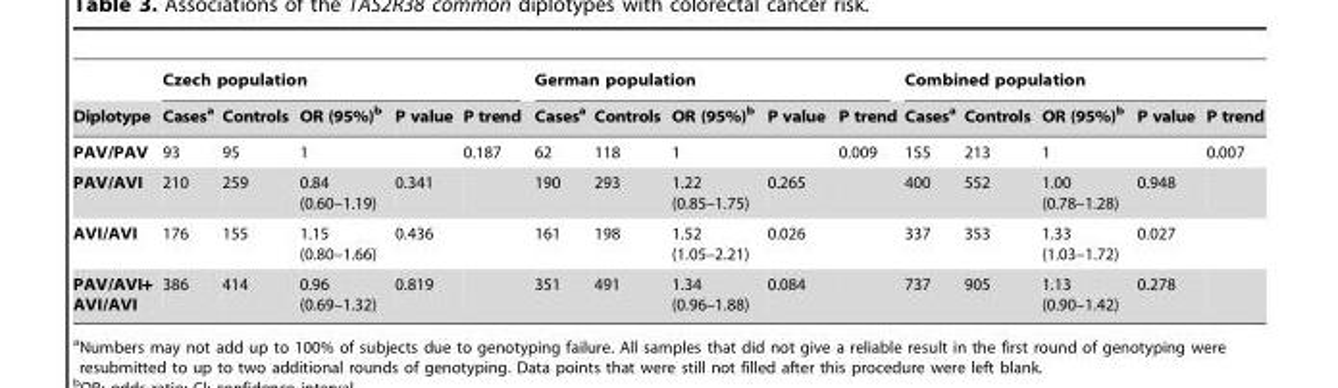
<table><thead><tr><td rowspan="2">Diplotype</td><td colspan="5">Czech population</td><td colspan="5">German population</td><td colspan="5">Combined population</td></tr><tr><td>Cases<sup>a</sup></td><td>Controls</td><td>OR (95%)<sup>b</sup></td><td>P value</td><td>P trend</td><td>Cases<sup>a</sup></td><td>Controls</td><td>OR (95%)<sup>b</sup></td><td>P value</td><td>P trend</td><td>Cases<sup>a</sup></td><td>Controls</td><td>OR (95%)<sup>b</sup></td><td>P value</td><td>P trend</td></tr></thead><tbody><tr><td>PAV/PAV</td><td>93</td><td>95</td><td>1</td><td></td><td>0.187</td><td>62</td><td>118</td><td>1</td><td></td><td>0.009</td><td>155</td><td>213</td><td>1</td><td></td><td>0.007</td></tr><tr><td>PAV/AVI</td><td>210</td><td>259</td><td>0.84 (0.60–1.19)</td><td>0.341</td><td></td><td>190</td><td>293</td><td>1.22 (0.85–1.75)</td><td>0.265</td><td></td><td>400</td><td>552</td><td>1.00 (0.78–1.28)</td><td>0.948</td><td></td></tr><tr><td>AVI/AVI</td><td>176</td><td>155</td><td>1.15 (0.80–1.66)</td><td>0.436</td><td></td><td>161</td><td>198</td><td>1.52 (1.05–2.21)</td><td>0.026</td><td></td><td>337</td><td>353</td><td>1.33 (1.03–1.72)</td><td>0.027</td><td></td></tr><tr><td>PAV/AVI+ AVI/AVI</td><td>386</td><td>414</td><td>0.96 (0.69–1.32)</td><td>0.819</td><td></td><td>351</td><td>491</td><td>1.34 (0.96–1.88)</td><td>0.084</td><td></td><td>737</td><td>905</td><td>1.13 (0.90–1.42)</td><td>0.278</td><td></td></tr></tbody></table>